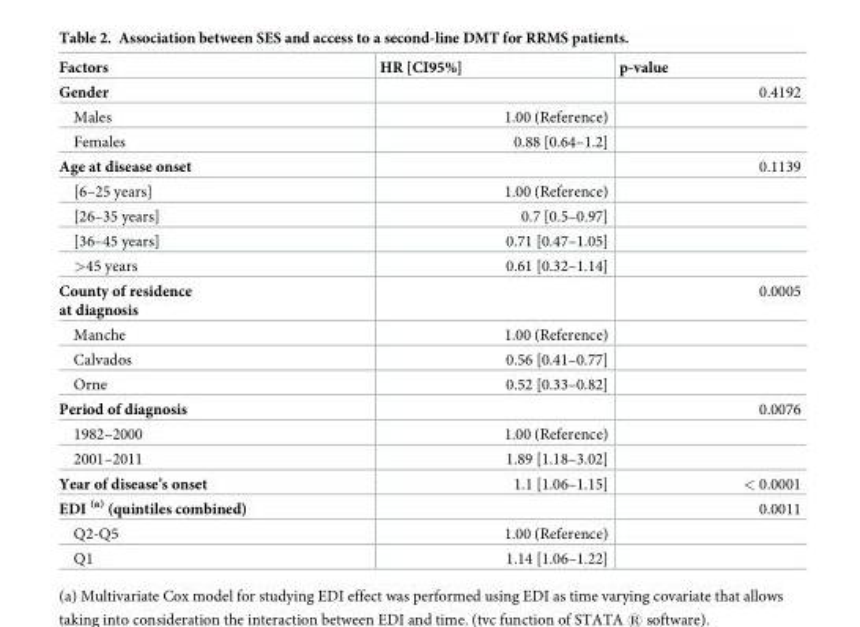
<table><thead><tr><td>Factors</td><td>HR [CI95%]</td><td>p-value</td></tr></thead><tbody><tr><td>Gender</td><td></td><td>0.4192</td></tr><tr><td>Males</td><td>1.00 (Reference)</td><td></td></tr><tr><td>Females</td><td>0.88 [0.64–1.2]</td><td></td></tr><tr><td>Age at disease onset</td><td></td><td>0.1139</td></tr><tr><td>[6–25 years]</td><td>1.00 (Reference)</td><td></td></tr><tr><td>[26–35 years]</td><td>0.7 [0.5–0.97]</td><td></td></tr><tr><td>[36–45 years]</td><td>0.71 [0.47–1.05]</td><td></td></tr><tr><td>&gt;45 years</td><td>0.61 [0.32–1.14]</td><td></td></tr><tr><td>County of residence at diagnosis</td><td></td><td>0.0005</td></tr><tr><td>Manche</td><td>1.00 (Reference)</td><td></td></tr><tr><td>Calvados</td><td>0.56 [0.41–0.77]</td><td></td></tr><tr><td>Orne</td><td>0.52 [0.33–0.82]</td><td></td></tr><tr><td>Period of diagnosis</td><td></td><td>0.0076</td></tr><tr><td>1982–2000</td><td>1.00 (Reference)</td><td></td></tr><tr><td>2001–2011</td><td>1.89 [1.18–3.02]</td><td></td></tr><tr><td>Year of disease’s onset</td><td>1.1 [1.06–1.15]</td><td>&lt; 0.0001</td></tr><tr><td>EDI <sup>(a)</sup> (quintiles combined)</td><td></td><td>0.0011</td></tr><tr><td>Q2-Q5</td><td>1.00 (Reference)</td><td></td></tr><tr><td>Q1</td><td>1.14 [1.06–1.22]</td><td></td></tr></tbody></table>